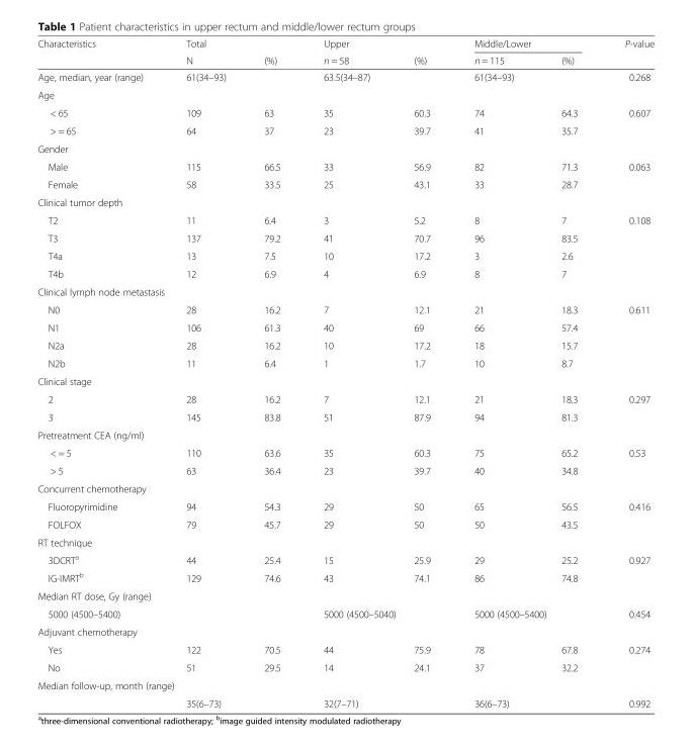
<table><thead><tr><td rowspan="2">Characteristics</td><td rowspan="2">Total N</td><td rowspan="2">(%)</td><td rowspan="2">Upper n = 58</td><td rowspan="2">(%)</td><td colspan="2">Middle/Lower</td><td rowspan="2">P-value</td></tr><tr><td>n = 115</td><td>(%)</td></tr></thead><tbody><tr><td>Age, median, year (range)</td><td colspan="2">61(34–93)</td><td>63.5(34–87)</td><td></td><td>61(34–93)</td><td></td><td>0.268</td></tr><tr><td colspan="8">Age</td></tr><tr><td>&lt; 65</td><td>109</td><td>63</td><td>35</td><td>60.3</td><td>74</td><td>64.3</td><td>0.607</td></tr><tr><td>&gt; = 65</td><td>64</td><td>37</td><td>23</td><td>39.7</td><td>41</td><td>35.7</td><td></td></tr><tr><td colspan="8">Gender</td></tr><tr><td>Male</td><td>115</td><td>66.5</td><td>33</td><td>56.9</td><td>82</td><td>71.3</td><td>0.063</td></tr><tr><td>Female</td><td>58</td><td>33.5</td><td>25</td><td>43.1</td><td>33</td><td>28.7</td><td></td></tr><tr><td colspan="8">Clinical tumor depth</td></tr><tr><td>T2</td><td>11</td><td>6.4</td><td>3</td><td>5.2</td><td>8</td><td>7</td><td>0.108</td></tr><tr><td>T3</td><td>137</td><td>79.2</td><td>41</td><td>70.7</td><td>96</td><td>83.5</td><td rowspan="3"></td></tr><tr><td>T4a</td><td>13</td><td>7.5</td><td>10</td><td>17.2</td><td>3</td><td>2.6</td></tr><tr><td>T4b</td><td>12</td><td>6.9</td><td>4</td><td>6.9</td><td>8</td><td>7</td></tr><tr><td colspan="8">Clinical lymph node metastasis</td></tr><tr><td>N0</td><td>28</td><td>16.2</td><td>7</td><td>12.1</td><td>21</td><td>18.3</td><td>0.611</td></tr><tr><td>N1</td><td>106</td><td>61.3</td><td>40</td><td>69</td><td>66</td><td>57.4</td><td rowspan="3"></td></tr><tr><td>N2a</td><td>28</td><td>16.2</td><td>10</td><td>17.2</td><td>18</td><td>15.7</td></tr><tr><td>N2b</td><td>11</td><td>6.4</td><td>1</td><td>1.7</td><td>10</td><td>8.7</td></tr><tr><td colspan="8">Clinical stage</td></tr><tr><td>2</td><td>28</td><td>16.2</td><td>7</td><td>12.1</td><td>21</td><td>18.3</td><td>0.297</td></tr><tr><td>3</td><td>145</td><td>83.8</td><td>51</td><td>87.9</td><td>94</td><td>81.3</td><td></td></tr><tr><td colspan="8">Pretreatment CEA (ng/ml)</td></tr><tr><td>&lt; = 5</td><td>110</td><td>63.6</td><td>35</td><td>60.3</td><td>75</td><td>65.2</td><td>0.53</td></tr><tr><td>&gt; 5</td><td>63</td><td>36.4</td><td>23</td><td>39.7</td><td>40</td><td>34.8</td><td></td></tr><tr><td colspan="8">Concurrent chemotherapy</td></tr><tr><td>Fluoropyrimidine</td><td>94</td><td>54.3</td><td>29</td><td>50</td><td>65</td><td>56.5</td><td>0.416</td></tr><tr><td>FOLFOX</td><td>79</td><td>45.7</td><td>29</td><td>50</td><td>50</td><td>43.5</td><td></td></tr><tr><td colspan="8">RT technique</td></tr><tr><td>3DCRT<sup>a</sup></td><td>44</td><td>25.4</td><td>15</td><td>25.9</td><td>29</td><td>25.2</td><td>0.927</td></tr><tr><td>IG-IMRT<sup>b</sup></td><td>129</td><td>74.6</td><td>43</td><td>74.1</td><td>86</td><td>74.8</td><td></td></tr><tr><td colspan="8">Median RT dose, Gy (range)</td></tr><tr><td colspan="3">5000 (4500–5400)</td><td colspan="2">5000 (4500–5040)</td><td colspan="2">5000 (4500–5400)</td><td>0.454</td></tr><tr><td colspan="8">Adjuvant chemotherapy</td></tr><tr><td>Yes</td><td>122</td><td>70.5</td><td>44</td><td>75.9</td><td>78</td><td>67.8</td><td>0.274</td></tr><tr><td>No</td><td>51</td><td>29.5</td><td>14</td><td>24.1</td><td>37</td><td>32.2</td><td></td></tr><tr><td colspan="8">Median follow-up, month (range)</td></tr><tr><td></td><td>35(6–73)</td><td></td><td>32(7–71)</td><td></td><td>36(6–73)</td><td></td><td>0.992</td></tr></tbody></table>